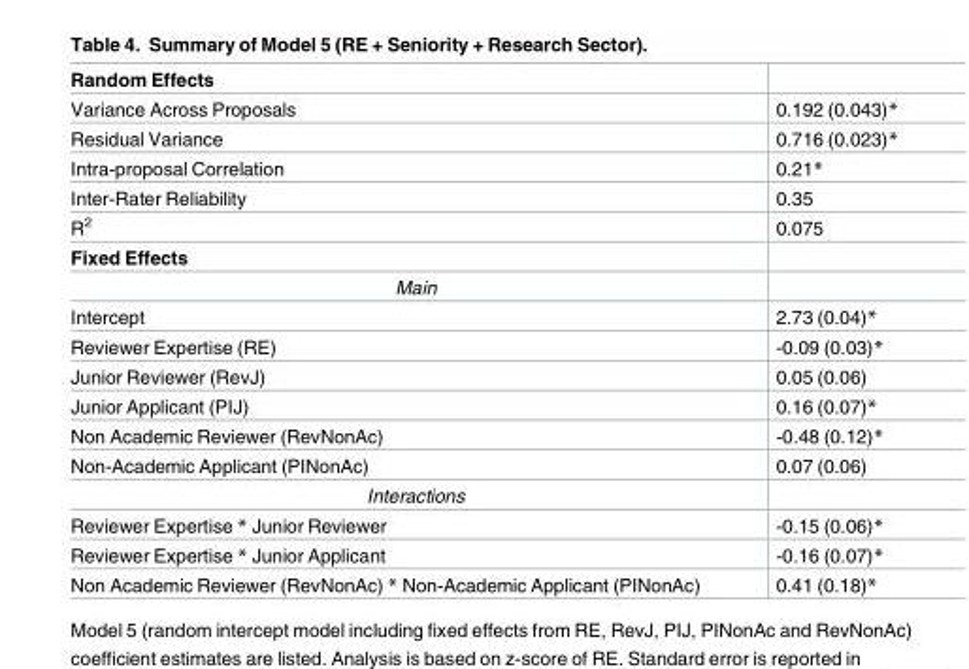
<table><tbody><tr><td colspan="2">Random Effects</td></tr><tr><td>Variance Across Proposals</td><td>0.192 (0.043)*</td></tr><tr><td>Residual Variance</td><td>0.716 (0.023)*</td></tr><tr><td>Intra-proposal Correlation</td><td>0.21*</td></tr><tr><td>Inter-Rater Reliability</td><td>0.35</td></tr><tr><td>R<sup>2</sup></td><td>0.075</td></tr><tr><td colspan="2">Fixed Effects</td></tr><tr><td colspan="2">Main</td></tr><tr><td>Intercept</td><td>2.73 (0.04)*</td></tr><tr><td>Reviewer Expertise (RE)</td><td>-0.09 (0.03)*</td></tr><tr><td>Junior Reviewer (RevJ)</td><td>0.05 (0.06)</td></tr><tr><td>Junior Applicant (PIJ)</td><td>0.16 (0.07)*</td></tr><tr><td>Non Academic Reviewer (RevNonAc)</td><td>-0.48 (0.12)*</td></tr><tr><td>Non-Academic Applicant (PINonAc)</td><td>0.07 (0.06)</td></tr><tr><td colspan="2">Interactions</td></tr><tr><td>Reviewer Expertise * Junior Reviewer</td><td>-0.15 (0.06)*</td></tr><tr><td>Reviewer Expertise * Junior Applicant</td><td>-0.16 (0.07)*</td></tr><tr><td>Non Academic Reviewer (RevNonAc) * Non-Academic Applicant (PINonAc)</td><td>0.41 (0.18)*</td></tr></tbody></table>